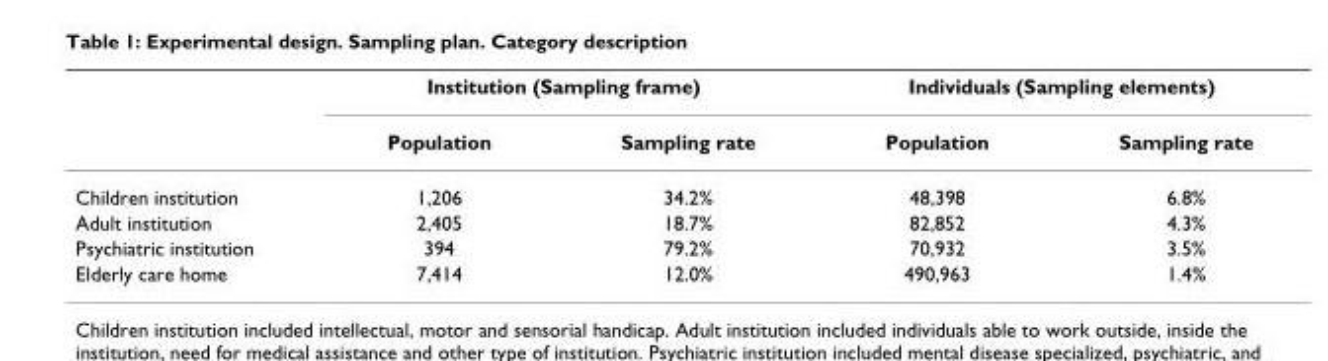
<table><thead><tr><td rowspan="2"></td><td colspan="2">Institution (Sampling frame)</td><td colspan="2">Individuals (Sampling elements)</td></tr><tr><td>Population</td><td>Sampling rate</td><td>Population</td><td>Sampling rate</td></tr></thead><tbody><tr><td>Children institution</td><td>1,206</td><td>34.2%</td><td>48,398</td><td>6.8%</td></tr><tr><td>Adult institution</td><td>2,405</td><td>18.7%</td><td>82,852</td><td>4.3%</td></tr><tr><td>Psychiatric institution</td><td>394</td><td>79.2%</td><td>70,932</td><td>3.5%</td></tr><tr><td>Elderly care home</td><td>7,414</td><td>12.0%</td><td>490,963</td><td>1.4%</td></tr></tbody></table>